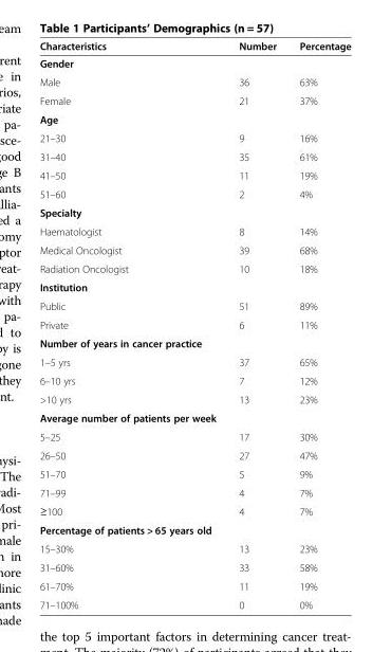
<table><thead><tr><td>Characteristics</td><td>Number</td><td>Percentage</td></tr></thead><tbody><tr><td colspan="3">Gender</td></tr><tr><td>Male</td><td>36</td><td>63%</td></tr><tr><td>Female</td><td>21</td><td>37%</td></tr><tr><td colspan="3">Age</td></tr><tr><td>21–30</td><td>9</td><td>16%</td></tr><tr><td>31–40</td><td>35</td><td>61%</td></tr><tr><td>41–50</td><td>11</td><td>19%</td></tr><tr><td>51–60</td><td>2</td><td>4%</td></tr><tr><td colspan="3">Specialty</td></tr><tr><td>Haematologist</td><td>8</td><td>14%</td></tr><tr><td>Medical Oncologist</td><td>39</td><td>68%</td></tr><tr><td>Radiation Oncologist</td><td>10</td><td>18%</td></tr><tr><td colspan="3">Institution</td></tr><tr><td>Public</td><td>51</td><td>89%</td></tr><tr><td>Private</td><td>6</td><td>11%</td></tr><tr><td colspan="3">Number of years in cancer practice</td></tr><tr><td>1–5 yrs</td><td>37</td><td>65%</td></tr><tr><td>6–10 yrs</td><td>7</td><td>12%</td></tr><tr><td>&gt;10 yrs</td><td>13</td><td>23%</td></tr><tr><td colspan="3">Average number of patients per week</td></tr><tr><td>5–25</td><td>17</td><td>30%</td></tr><tr><td>26–50</td><td>27</td><td>47%</td></tr><tr><td>51–70</td><td>5</td><td>9%</td></tr><tr><td>71–99</td><td>4</td><td>7%</td></tr><tr><td>≥100</td><td>4</td><td>7%</td></tr><tr><td colspan="3">Percentage of patients &gt; 65 years old</td></tr><tr><td>15–30%</td><td>13</td><td>23%</td></tr><tr><td>31–60%</td><td>33</td><td>58%</td></tr><tr><td>61–70%</td><td>11</td><td>19%</td></tr><tr><td>71–100%</td><td>0</td><td>0%</td></tr></tbody></table>